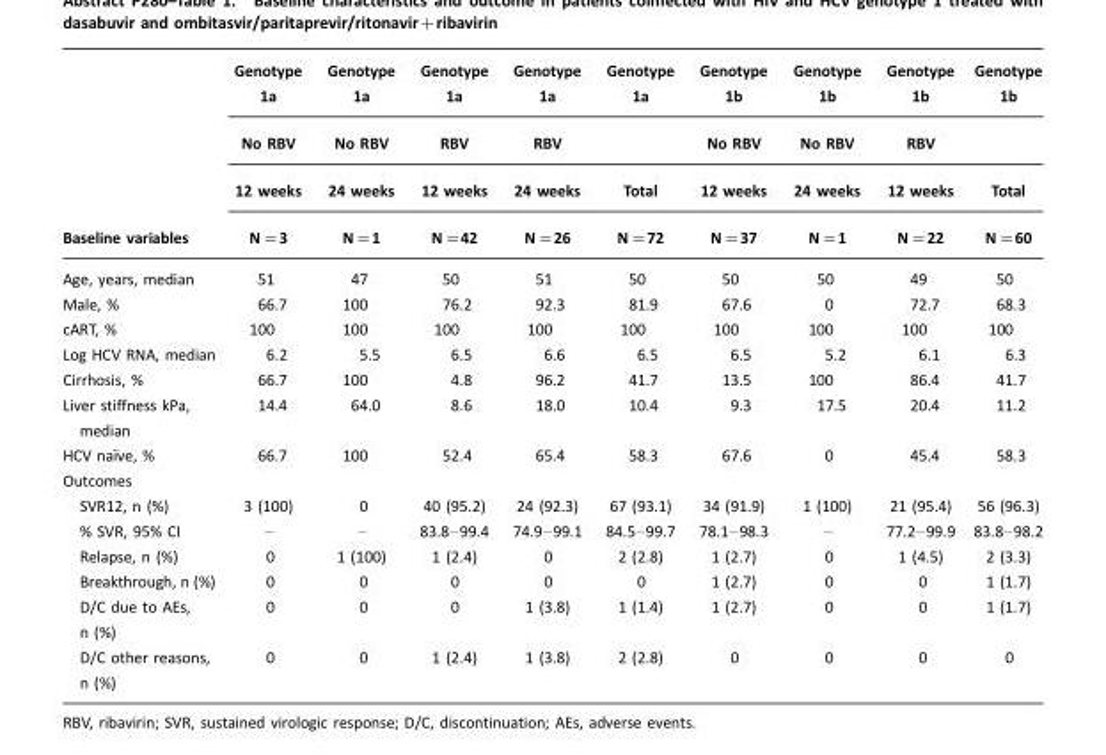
<table><thead><tr><td rowspan="4">Baseline variables</td><td rowspan="4">Genotype 1a No RBV 12 weeks N=3</td><td rowspan="4">Genotype 1a No RBV 24 weeks N=1</td><td rowspan="4">Genotype 1a RBV 12 weeks N=42</td><td rowspan="4">Genotype 1a RBV 24 weeks N=26</td><td rowspan="4">Genotype 1a Total N=72</td><td rowspan="4">Genotype 1b No RBV 12 weeks N=37</td><td rowspan="4">Genotype 1b No RBV 24 weeks N=1</td><td rowspan="4">Genotype 1b RBV 12 weeks N=22</td><td rowspan="4">Genotype 1b Total N=60</td></tr><tr></tr><tr></tr><tr></tr></thead><tbody><tr><td>Age, years, median</td><td>51</td><td>47</td><td>50</td><td>51</td><td>50</td><td>50</td><td>50</td><td>49</td><td>50</td></tr><tr><td>Male, %</td><td>66.7</td><td>100</td><td>76.2</td><td>92.3</td><td>81.9</td><td>67.6</td><td>0</td><td>72.7</td><td>68.3</td></tr><tr><td>cART, %</td><td>100</td><td>100</td><td>100</td><td>100</td><td>100</td><td>100</td><td>100</td><td>100</td><td>100</td></tr><tr><td>Log HCV RNA, median</td><td>6.2</td><td>5.5</td><td>6.5</td><td>6.6</td><td>6.5</td><td>6.5</td><td>5.2</td><td>6.1</td><td>6.3</td></tr><tr><td>Cirrhosis, %</td><td>66.7</td><td>100</td><td>4.8</td><td>96.2</td><td>41.7</td><td>13.5</td><td>100</td><td>86.4</td><td>41.7</td></tr><tr><td>Liver stiffness kPa, median</td><td>14.4</td><td>64.0</td><td>8.6</td><td>18.0</td><td>10.4</td><td>9.3</td><td>17.5</td><td>20.4</td><td>11.2</td></tr><tr><td>HCV naı¨ve, %</td><td>66.7</td><td>100</td><td>52.4</td><td>65.4</td><td>58.3</td><td>67.6</td><td>0</td><td>45.4</td><td>58.3</td></tr><tr><td colspan="10">Outcomes</td></tr><tr><td>SVR12, n (%)</td><td>3 (100)</td><td>0</td><td>40 (95.2)</td><td>24 (92.3)</td><td>67 (93.1)</td><td>34 (91.9)</td><td>1 (100)</td><td>21 (95.4)</td><td>56 (96.3)</td></tr><tr><td>% SVR, 95% CI</td><td>–</td><td>–</td><td>83.8–99.4</td><td>74.9–99.1</td><td>84.5–99.7</td><td>78.1–98.3</td><td>–</td><td>77.2–99.9</td><td>83.8–98.2</td></tr><tr><td>Relapse, n (%)</td><td>0</td><td>1 (100)</td><td>1 (2.4)</td><td>0</td><td>2 (2.8)</td><td>1 (2.7)</td><td>0</td><td>1 (4.5)</td><td>2 (3.3)</td></tr><tr><td>Breakthrough, n (%)</td><td>0</td><td>0</td><td>0</td><td>0</td><td>0</td><td>1 (2.7)</td><td>0</td><td>0</td><td>1 (1.7)</td></tr><tr><td>D/C due to AEs, n (%)</td><td>0</td><td>0</td><td>0</td><td>1 (3.8)</td><td>1 (1.4)</td><td>1 (2.7)</td><td>0</td><td>0</td><td>1 (1.7)</td></tr><tr><td>D/C other reasons, n (%)</td><td>0</td><td>0</td><td>1 (2.4)</td><td>1 (3.8)</td><td>2 (2.8)</td><td>0</td><td>0</td><td>0</td><td>0</td></tr></tbody></table>